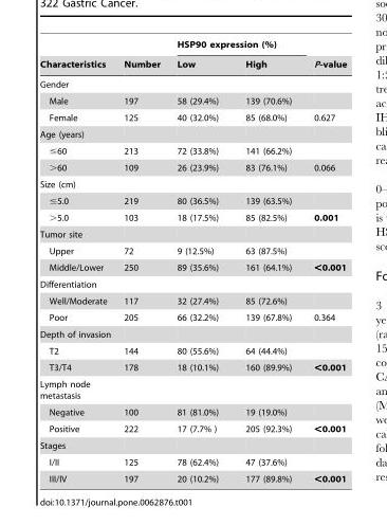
<table><thead><tr><td rowspan="2">Characteristics</td><td rowspan="2">Number</td><td colspan="2">HSP90 expression (%)</td><td rowspan="2">P-value</td></tr><tr><td>Low</td><td>High</td></tr></thead><tbody><tr><td colspan="5">Gender</td></tr><tr><td>Male</td><td>197</td><td>58 (29.4%)</td><td>139 (70.6%)</td><td></td></tr><tr><td>Female</td><td>125</td><td>40 (32.0%)</td><td>85 (68.0%)</td><td>0.627</td></tr><tr><td colspan="5">Age (years)</td></tr><tr><td>≤60</td><td>213</td><td>72 (33.8%)</td><td>141 (66.2%)</td><td></td></tr><tr><td>&gt;60</td><td>109</td><td>26 (23.9%)</td><td>83 (76.1%)</td><td>0.066</td></tr><tr><td colspan="5">Size (cm)</td></tr><tr><td>≤5.0</td><td>219</td><td>80 (36.5%)</td><td>139 (63.5%)</td><td></td></tr><tr><td>&gt;5.0</td><td>103</td><td>18 (17.5%)</td><td>85 (82.5%)</td><td>0.001</td></tr><tr><td colspan="5">Tumor site</td></tr><tr><td>Upper</td><td>72</td><td>9 (12.5%)</td><td>63 (87.5%)</td><td></td></tr><tr><td>Middle/Lower</td><td>250</td><td>89 (35.6%)</td><td>161 (64.1%)</td><td>&lt;0.001</td></tr><tr><td colspan="5">Differentiation</td></tr><tr><td>Well/Moderate</td><td>117</td><td>32 (27.4%)</td><td>85 (72.6%)</td><td></td></tr><tr><td>Poor</td><td>205</td><td>66 (32.2%)</td><td>139 (67.8%)</td><td>0.364</td></tr><tr><td colspan="5">Depth of invasion</td></tr><tr><td>T2</td><td>144</td><td>80 (55.6%)</td><td>64 (44.4%)</td><td></td></tr><tr><td>T3/T4</td><td>178</td><td>18 (10.1%)</td><td>160 (89.9%)</td><td>&lt;0.001</td></tr><tr><td colspan="5">Lymph node metastasis</td></tr><tr><td>Negative</td><td>100</td><td>81 (81.0%)</td><td>19 (19.0%)</td><td></td></tr><tr><td>Positive</td><td>222</td><td>17 (7.7% )</td><td>205 (92.3%)</td><td>&lt;0.001</td></tr><tr><td colspan="5">Stages</td></tr><tr><td>I/II</td><td>125</td><td>78 (62.4%)</td><td>47 (37.6%)</td><td></td></tr><tr><td>III/IV</td><td>197</td><td>20 (10.2%)</td><td>177 (89.8%)</td><td>&lt;0.001</td></tr></tbody></table>